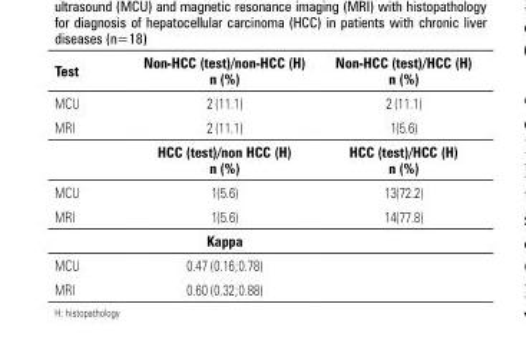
<table><thead><tr><td>Test</td><td>Non-HCC (test)/non-HCC (H) n (%)</td><td>Non-HCC (test)/HCC (H) n (%)</td></tr></thead><tbody><tr><td>MCU</td><td>2 (11.1)</td><td>2 (11.1)</td></tr><tr><td rowspan="2">MRI</td><td>2 (11.1)</td><td>1(5.6)</td></tr><tr><td>HCC (test)/non HCC (H) n (%)</td><td>HCC (test)/HCC (H) n (%)</td></tr><tr><td>MCU</td><td>1(5.6)</td><td>13(72.2)</td></tr><tr><td rowspan="2">MRI</td><td>1(5.6)</td><td>14(77.8)</td></tr><tr><td>Kappa</td><td></td></tr><tr><td>MCU</td><td>0.47 (0.16;0.78)</td><td></td></tr><tr><td>MRI</td><td>0.60 (0.32;0.88)</td><td></td></tr></tbody></table>